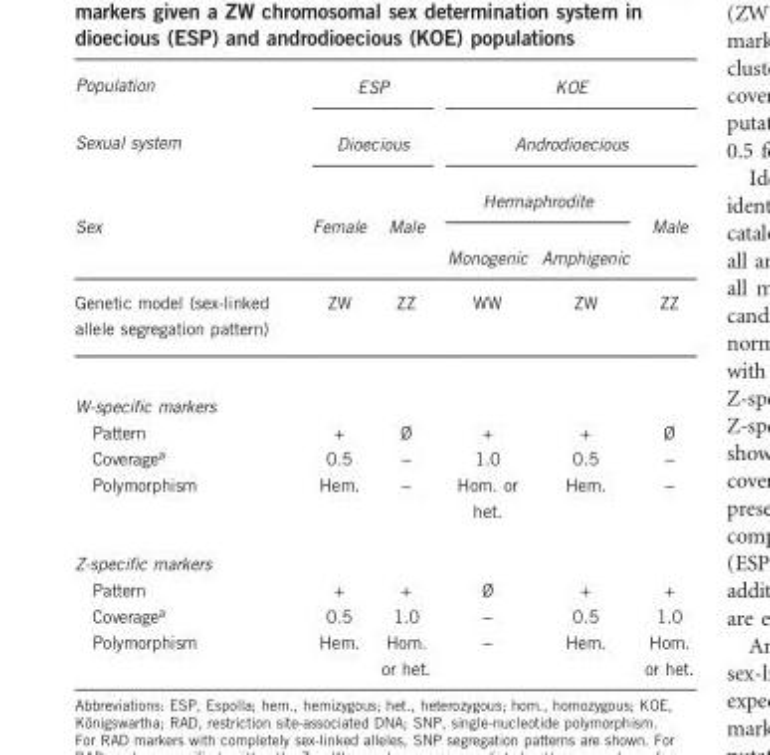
<table><thead><tr><td rowspan="4">Population Sexual system Sex</td><td rowspan="2" colspan="2">ESP Dioecious</td><td rowspan="2" colspan="3">KOE Androdioecious</td></tr><tr></tr><tr><td rowspan="2">Female</td><td rowspan="2">Male</td><td colspan="2">Hermaphrodite</td><td rowspan="2">Male</td></tr><tr><td>Monogenic</td><td>Amphigenic</td></tr></thead><tbody><tr><td>Genetic model (sex-linked allele segregation pattern)</td><td>ZW</td><td>ZZ</td><td>WW</td><td>ZW</td><td>ZZ</td></tr><tr><td colspan="6">W-specific markers</td></tr><tr><td>Pattern</td><td>+</td><td>Ø</td><td>+</td><td>+</td><td>Ø</td></tr><tr><td>Coverage<sup>a</sup></td><td>0.5</td><td>−</td><td>1.0</td><td>0.5</td><td>−</td></tr><tr><td>Polymorphism</td><td>Hem.</td><td>−</td><td>Hom. or het.</td><td>Hem.</td><td>−</td></tr><tr><td colspan="6">Z-specific markers</td></tr><tr><td>Pattern</td><td>+</td><td>+</td><td>Ø</td><td>+</td><td>+</td></tr><tr><td>Coverage<sup>a</sup></td><td>0.5</td><td>1.0</td><td>−</td><td>0.5</td><td>1.0</td></tr><tr><td>Polymorphism</td><td>Hem.</td><td>Hom. or het.</td><td>−</td><td>Hem.</td><td>Hom. or het.</td></tr></tbody></table>